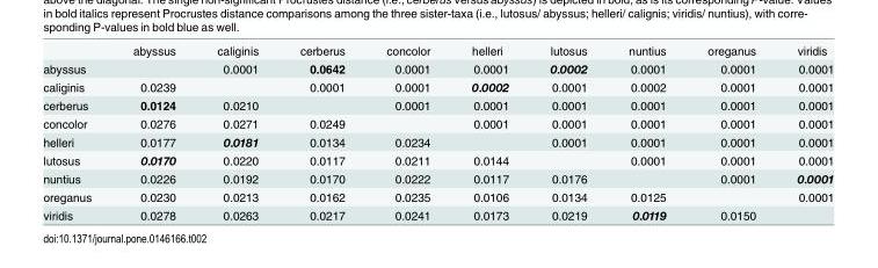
<table><thead><tr><td></td><td>abyssus</td><td>caliginis</td><td>cerberus</td><td>concolor</td><td>helleri</td><td>lutosus</td><td>nuntius</td><td>oreganus</td><td>viridis</td></tr></thead><tbody><tr><td>abyssus</td><td></td><td>0.0001</td><td>0.0642</td><td>0.0001</td><td>0.0001</td><td>0.0002</td><td>0.0001</td><td>0.0001</td><td>0.0001</td></tr><tr><td>caliginis</td><td>0.0239</td><td></td><td>0.0001</td><td>0.0001</td><td>0.0002</td><td>0.0001</td><td>0.0002</td><td>0.0001</td><td>0.0001</td></tr><tr><td>cerberus</td><td>0.0124</td><td>0.0210</td><td></td><td>0.0001</td><td>0.0001</td><td>0.0001</td><td>0.0001</td><td>0.0001</td><td>0.0001</td></tr><tr><td>concolor</td><td>0.0276</td><td>0.0271</td><td>0.0249</td><td></td><td>0.0001</td><td>0.0001</td><td>0.0001</td><td>0.0001</td><td>0.0001</td></tr><tr><td>helleri</td><td>0.0177</td><td>0.0181</td><td>0.0134</td><td>0.0234</td><td></td><td>0.0001</td><td>0.0001</td><td>0.0001</td><td>0.0001</td></tr><tr><td>lutosus</td><td>0.0170</td><td>0.0220</td><td>0.0117</td><td>0.0211</td><td>0.0144</td><td></td><td>0.0001</td><td>0.0001</td><td>0.0001</td></tr><tr><td>nuntius</td><td>0.0226</td><td>0.0192</td><td>0.0170</td><td>0.0222</td><td>0.0117</td><td>0.0176</td><td></td><td>0.0001</td><td>0.0001</td></tr><tr><td>oreganus</td><td>0.0230</td><td>0.0213</td><td>0.0162</td><td>0.0235</td><td>0.0106</td><td>0.0134</td><td>0.0125</td><td></td><td>0.0001</td></tr><tr><td>viridis</td><td>0.0278</td><td>0.0263</td><td>0.0217</td><td>0.0241</td><td>0.0173</td><td>0.0219</td><td>0.0119</td><td>0.0150</td><td></td></tr></tbody></table>